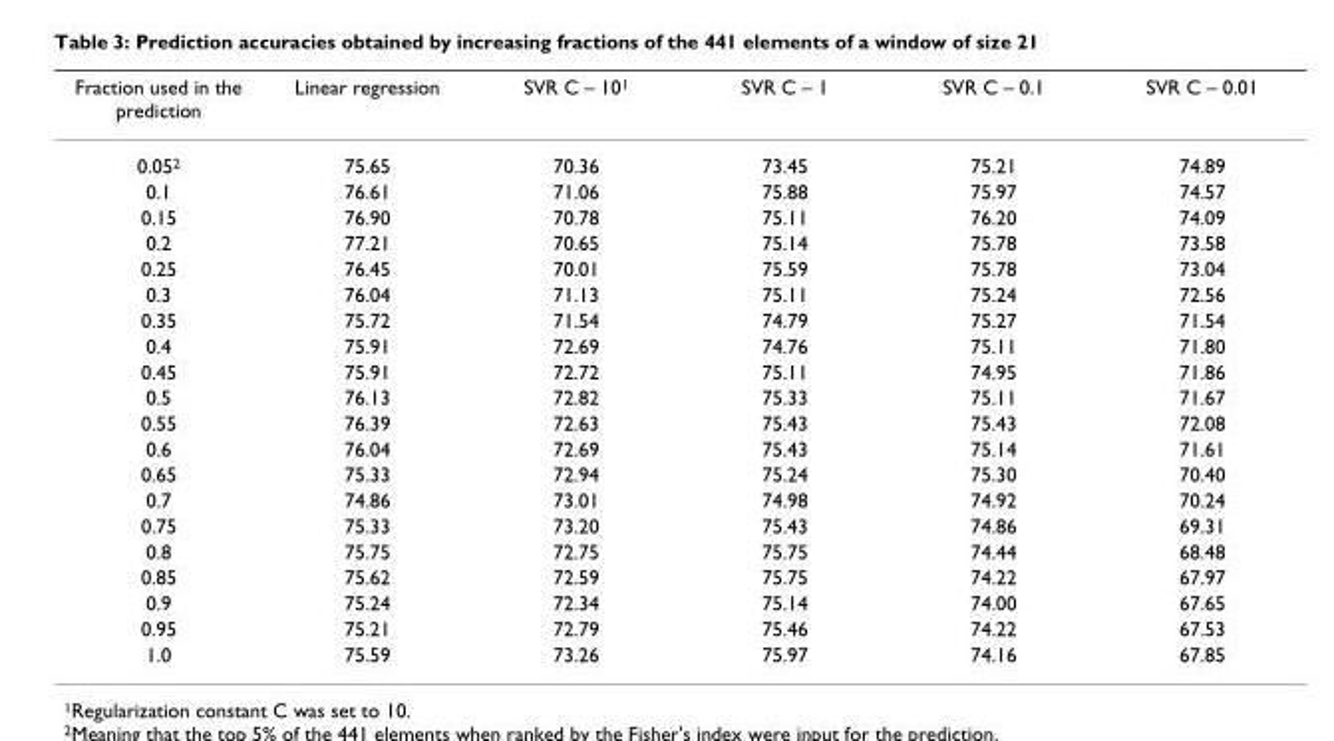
<table><thead><tr><td>Fraction used in the prediction</td><td>Linear regression</td><td>SVR C – 10<sup>1</sup></td><td>SVR C – 1</td><td>SVR C – 0.1</td><td>SVR C – 0.01</td></tr></thead><tbody><tr><td>0.05<sup>2</sup></td><td>75.65</td><td>70.36</td><td>73.45</td><td>75.21</td><td>74.89</td></tr><tr><td>0.1</td><td>76.61</td><td>71.06</td><td>75.88</td><td>75.97</td><td>74.57</td></tr><tr><td>0.15</td><td>76.90</td><td>70.78</td><td>75.11</td><td>76.20</td><td>74.09</td></tr><tr><td>0.2</td><td>77.21</td><td>70.65</td><td>75.14</td><td>75.78</td><td>73.58</td></tr><tr><td>0.25</td><td>76.45</td><td>70.01</td><td>75.59</td><td>75.78</td><td>73.04</td></tr><tr><td>0.3</td><td>76.04</td><td>71.13</td><td>75.11</td><td>75.24</td><td>72.56</td></tr><tr><td>0.35</td><td>75.72</td><td>71.54</td><td>74.79</td><td>75.27</td><td>71.54</td></tr><tr><td>0.4</td><td>75.91</td><td>72.69</td><td>74.76</td><td>75.11</td><td>71.80</td></tr><tr><td>0.45</td><td>75.91</td><td>72.72</td><td>75.11</td><td>74.95</td><td>71.86</td></tr><tr><td>0.5</td><td>76.13</td><td>72.82</td><td>75.33</td><td>75.11</td><td>71.67</td></tr><tr><td>0.55</td><td>76.39</td><td>72.63</td><td>75.43</td><td>75.43</td><td>72.08</td></tr><tr><td>0.6</td><td>76.04</td><td>72.69</td><td>75.43</td><td>75.14</td><td>71.61</td></tr><tr><td>0.65</td><td>75.33</td><td>72.94</td><td>75.24</td><td>75.30</td><td>70.40</td></tr><tr><td>0.7</td><td>74.86</td><td>73.01</td><td>74.98</td><td>74.92</td><td>70.24</td></tr><tr><td>0.75</td><td>75.33</td><td>73.20</td><td>75.43</td><td>74.86</td><td>69.31</td></tr><tr><td>0.8</td><td>75.75</td><td>72.75</td><td>75.75</td><td>74.44</td><td>68.48</td></tr><tr><td>0.85</td><td>75.62</td><td>72.59</td><td>75.75</td><td>74.22</td><td>67.97</td></tr><tr><td>0.9</td><td>75.24</td><td>72.34</td><td>75.14</td><td>74.00</td><td>67.65</td></tr><tr><td>0.95</td><td>75.21</td><td>72.79</td><td>75.46</td><td>74.22</td><td>67.53</td></tr><tr><td>1.0</td><td>75.59</td><td>73.26</td><td>75.97</td><td>74.16</td><td>67.85</td></tr></tbody></table>